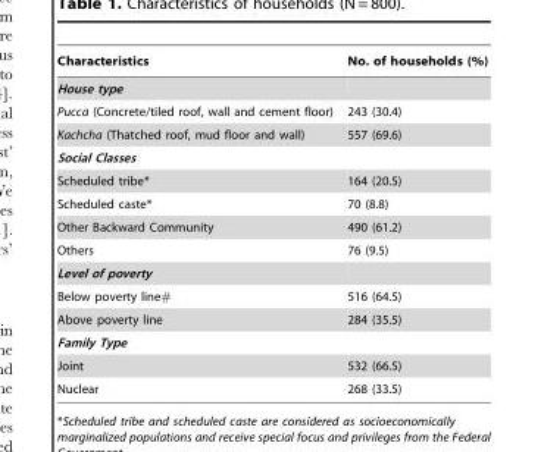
<table><thead><tr><td>Characteristics</td><td>No. of households (%)</td></tr></thead><tbody><tr><td colspan="2">House type</td></tr><tr><td>Pucca (Concrete/tiled roof, wall and cement floor)</td><td>243 (30.4)</td></tr><tr><td>Kachcha (Thatched roof, mud floor and wall)</td><td>557 (69.6)</td></tr><tr><td colspan="2">Social Classes</td></tr><tr><td>Scheduled tribe*</td><td>164 (20.5)</td></tr><tr><td>Scheduled caste*</td><td>70 (8.8)</td></tr><tr><td>Other Backward Community</td><td>490 (61.2)</td></tr><tr><td>Others</td><td>76 (9.5)</td></tr><tr><td colspan="2">Level of poverty</td></tr><tr><td>Below poverty line#</td><td>516 (64.5)</td></tr><tr><td>Above poverty line</td><td>284 (35.5)</td></tr><tr><td colspan="2">Family Type</td></tr><tr><td>Joint</td><td>532 (66.5)</td></tr><tr><td>Nuclear</td><td>268 (33.5)</td></tr></tbody></table>